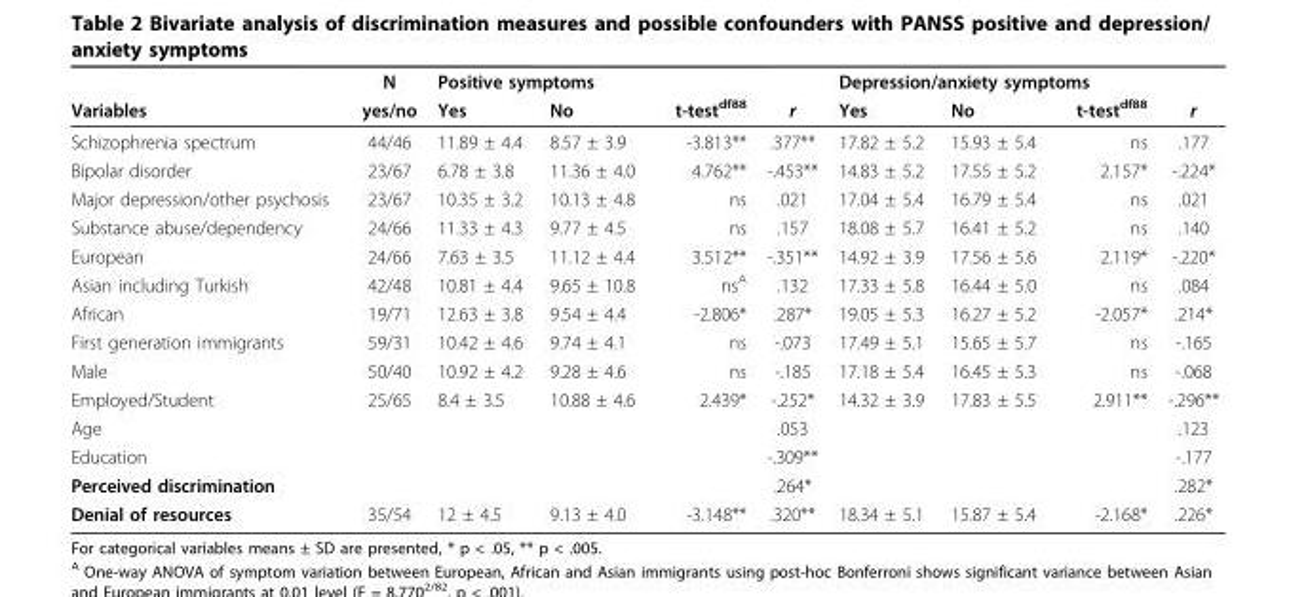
<table><thead><tr><td rowspan="2">Variables</td><td rowspan="2">N yes/no</td><td colspan="4">Positive symptoms</td><td colspan="4">Depression/anxiety symptoms</td></tr><tr><td>Yes</td><td>No</td><td>t-test<sup>df88</sup></td><td>r</td><td>Yes</td><td>No</td><td>t-test<sup>df88</sup></td><td>r</td></tr></thead><tbody><tr><td>Schizophrenia spectrum</td><td>44/46</td><td>11.89 ± 4.4</td><td>8.57 ± 3.9</td><td>-3.813**</td><td>.377**</td><td>17.82 ± 5.2</td><td>15.93 ± 5.4</td><td>ns</td><td>.177</td></tr><tr><td>Bipolar disorder</td><td>23/67</td><td>6.78 ± 3.8</td><td>11.36 ± 4.0</td><td>4.762**</td><td>-.453**</td><td>14.83 ± 5.2</td><td>17.55 ± 5.2</td><td>2.157*</td><td>-.224*</td></tr><tr><td>Major depression/other psychosis</td><td>23/67</td><td>10.35 ± 3.2</td><td>10.13 ± 4.8</td><td>ns</td><td>.021</td><td>17.04 ± 5.4</td><td>16.79 ± 5.4</td><td>ns</td><td>.021</td></tr><tr><td>Substance abuse/dependency</td><td>24/66</td><td>11.33 ± 4.3</td><td>9.77 ± 4.5</td><td>ns</td><td>.157</td><td>18.08 ± 5.7</td><td>16.41 ± 5.2</td><td>ns</td><td>.140</td></tr><tr><td>European</td><td>24/66</td><td>7.63 ± 3.5</td><td>11.12 ± 4.4</td><td>3.512**</td><td>-.351**</td><td>14.92 ± 3.9</td><td>17.56 ± 5.6</td><td>2.119*</td><td>-.220*</td></tr><tr><td>Asian including Turkish</td><td>42/48</td><td>10.81 ± 4.4</td><td>9.65 ± 10.8</td><td>ns<sup>A</sup></td><td>.132</td><td>17.33 ± 5.8</td><td>16.44 ± 5.0</td><td>ns</td><td>.084</td></tr><tr><td>African</td><td>19/71</td><td>12.63 ± 3.8</td><td>9.54 ± 4.4</td><td>-2.806*</td><td>.287*</td><td>19.05 ± 5.3</td><td>16.27 ± 5.2</td><td>-2.057*</td><td>.214*</td></tr><tr><td>First generation immigrants</td><td>59/31</td><td>10.42 ± 4.6</td><td>9.74 ± 4.1</td><td>ns</td><td>-.073</td><td>17.49 ± 5.1</td><td>15.65 ± 5.7</td><td>ns</td><td>-.165</td></tr><tr><td>Male</td><td>50/40</td><td>10.92 ± 4.2</td><td>9.28 ± 4.6</td><td>ns</td><td>-.185</td><td>17.18 ± 5.4</td><td>16.45 ± 5.3</td><td>ns</td><td>-.068</td></tr><tr><td>Employed/Student</td><td>25/65</td><td>8.4 ± 3.5</td><td>10.88 ± 4.6</td><td>2.439*</td><td>-.252*</td><td>14.32 ± 3.9</td><td>17.83 ± 5.5</td><td>2.911**</td><td>-.296**</td></tr><tr><td>Age</td><td></td><td></td><td></td><td></td><td>.053</td><td></td><td></td><td></td><td>.123</td></tr><tr><td>Education</td><td></td><td></td><td></td><td></td><td>-.309**</td><td></td><td></td><td></td><td>-.177</td></tr><tr><td>Perceived discrimination</td><td></td><td></td><td></td><td></td><td>.264*</td><td></td><td></td><td></td><td>.282*</td></tr><tr><td>Denial of resources</td><td>35/54</td><td>12 ± 4.5</td><td>9.13 ± 4.0</td><td>-3.148**</td><td>.320**</td><td>18.34 ± 5.1</td><td>15.87 ± 5.4</td><td>-2.168*</td><td>.226*</td></tr></tbody></table>